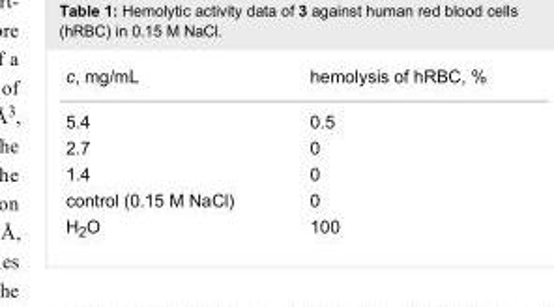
<table><tbody><tr><td>c, mg/mL</td><td>hemolysis of hRBC, %</td></tr><tr><td>5.4</td><td>0.5</td></tr><tr><td>2.7</td><td>0</td></tr><tr><td>1.4</td><td>0</td></tr><tr><td>control (0.15 M NaCl)</td><td>0</td></tr><tr><td>H<sub>2</sub>O</td><td>100</td></tr></tbody></table>